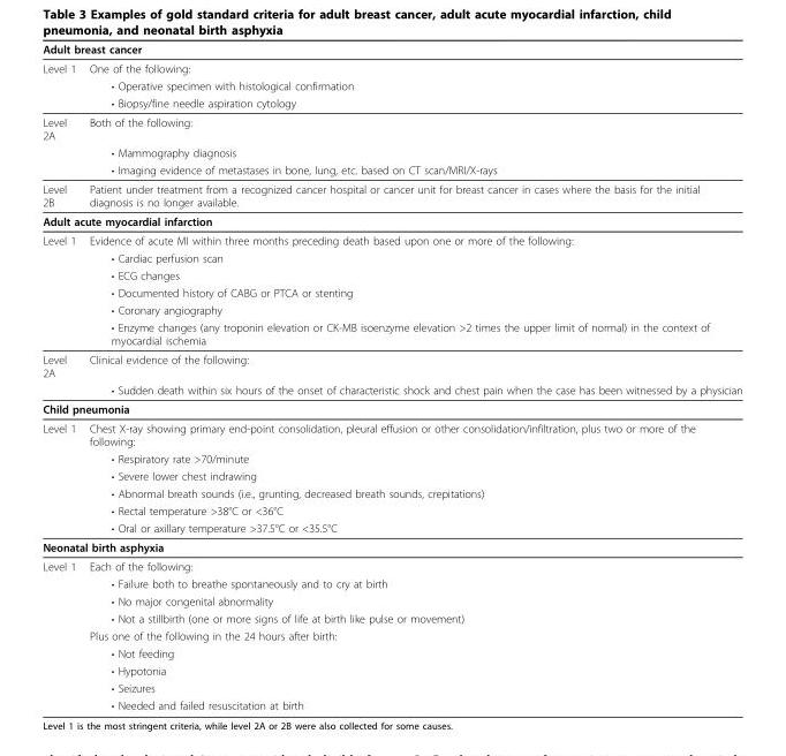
<table><thead><tr><td colspan="2">Adult breast cancer</td></tr><tr><td>Level 1</td><td>One of the following:</td></tr></thead><tbody><tr><td></td><td>• Operative specimen with histological confirmation</td></tr><tr><td></td><td>• Biopsy/fine needle aspiration cytology</td></tr><tr><td rowspan="3">Level 2A</td><td>Both of the following:</td></tr><tr><td>• Mammography diagnosis</td></tr><tr><td>• Imaging evidence of metastases in bone, lung, etc. based on CT scan/MRI/X-rays</td></tr><tr><td>Level 2B</td><td>Patient under treatment from a recognized cancer hospital or cancer unit for breast cancer in cases where the basis for the initial diagnosis is no longer available.</td></tr><tr><td colspan="2">Adult acute myocardial infarction</td></tr><tr><td rowspan="6">Level 1</td><td>Evidence of acute MI within three months preceding death based upon one or more of the following:</td></tr><tr><td>• Cardiac perfusion scan</td></tr><tr><td>• ECG changes</td></tr><tr><td>• Documented history of CABG or PTCA or stenting</td></tr><tr><td>• Coronary angiography</td></tr><tr><td>• Enzyme changes (any troponin elevation or CK-MB isoenzyme elevation &gt;2 times the upper limit of normal) in the context of myocardial ischemia</td></tr><tr><td rowspan="2">Level 2A</td><td>Clinical evidence of the following:</td></tr><tr><td>• Sudden death within six hours of the onset of characteristic shock and chest pain when the case has been witnessed by a physician</td></tr><tr><td colspan="2">Child pneumonia</td></tr><tr><td rowspan="6">Level 1</td><td>Chest X-ray showing primary end-point consolidation, pleural effusion or other consolidation/infiltration, plus two or more of the following:</td></tr><tr><td>• Respiratory rate &gt;70/minute</td></tr><tr><td>• Severe lower chest indrawing</td></tr><tr><td>• Abnormal breath sounds (i.e., grunting, decreased breath sounds, crepitations)</td></tr><tr><td>• Rectal temperature &gt;38°C or &lt;36°C</td></tr><tr><td>• Oral or axillary temperature &gt;37.5°C or &lt;35.5°C</td></tr><tr><td colspan="2">Neonatal birth asphyxia</td></tr><tr><td rowspan="9">Level 1</td><td>Each of the following:</td></tr><tr><td>• Failure both to breathe spontaneously and to cry at birth</td></tr><tr><td>• No major congenital abnormality</td></tr><tr><td>• Not a stillbirth (one or more signs of life at birth like pulse or movement)</td></tr><tr><td>Plus one of the following in the 24 hours after birth:</td></tr><tr><td>• Not feeding</td></tr><tr><td>• Hypotonia</td></tr><tr><td>• Seizures</td></tr><tr><td>• Needed and failed resuscitation at birth</td></tr></tbody></table>